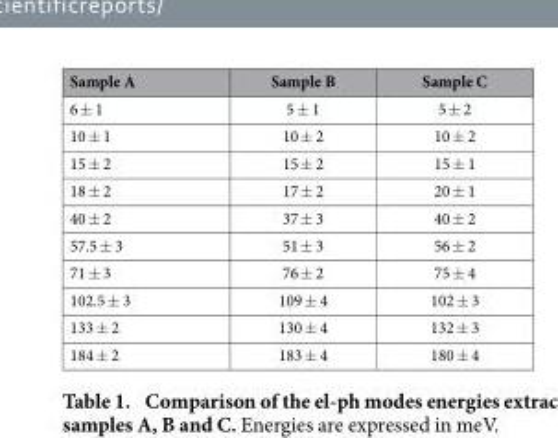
<table><thead><tr><td>Sample A</td><td>Sample B</td><td>Sample C</td></tr></thead><tbody><tr><td>6 ± 1</td><td>5 ± 1</td><td>5 ± 2</td></tr><tr><td>10 ± 1</td><td>10 ± 2</td><td>10 ± 2</td></tr><tr><td>15 ± 2</td><td>15 ± 2</td><td>15 ± 1</td></tr><tr><td>18 ± 2</td><td>17 ± 2</td><td>20 ± 1</td></tr><tr><td>40 ± 2</td><td>37 ± 3</td><td>40 ± 2</td></tr><tr><td>57.5 ± 3</td><td>51 ± 3</td><td>56 ± 2</td></tr><tr><td>71 ± 3</td><td>76 ± 2</td><td>75 ± 4</td></tr><tr><td>102.5 ± 3</td><td>109 ± 4</td><td>102 ± 3</td></tr><tr><td>133 ± 2</td><td>130 ± 4</td><td>132 ± 3</td></tr><tr><td>184 ± 2</td><td>183 ± 4</td><td>180 ± 4</td></tr></tbody></table>